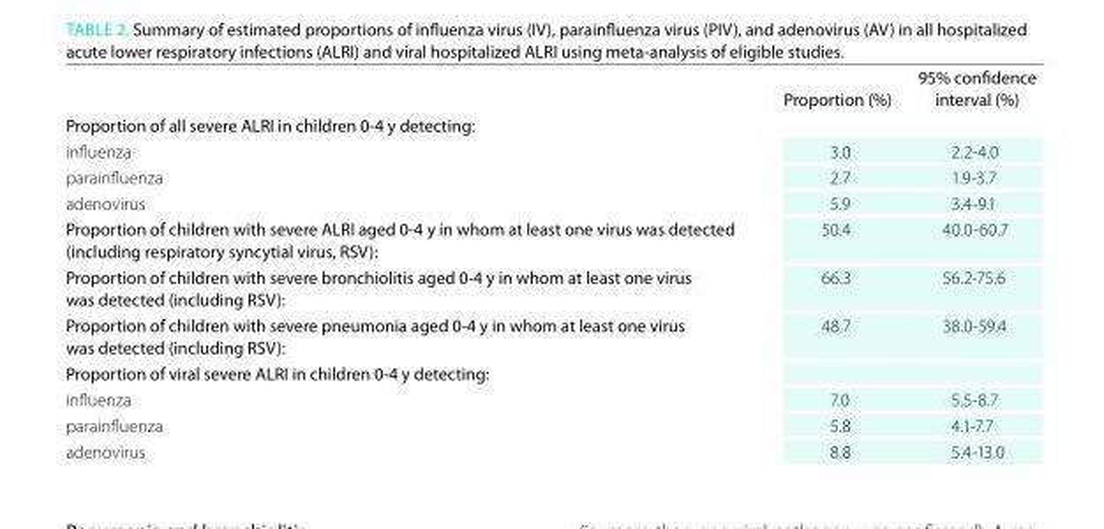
<table><thead><tr><td></td><td>Proportion (%)</td><td>95% confidence interval (%)</td></tr></thead><tbody><tr><td colspan="3">Proportion of all severe ALRI in children 0-4 y detecting:</td></tr><tr><td>influenza</td><td>3.0</td><td>2.2-4.0</td></tr><tr><td>parainfluenza</td><td>2.7</td><td>1.9-3.7</td></tr><tr><td>adenovirus</td><td>5.9</td><td>3.4-9.1</td></tr><tr><td>Proportion of children with severe ALRI aged 0-4 y in whom at least one virus was detected (including respiratory syncytial virus, RSV):</td><td>50.4</td><td>40.0-60.7</td></tr><tr><td>Proportion of children with severe bronchiolitis aged 0-4 y in whom at least one virus was detected (including RSV):</td><td>66.3</td><td>56.2-75.6</td></tr><tr><td>Proportion of children with severe pneumonia aged 0-4 y in whom at least one virus was detected (including RSV):</td><td>48.7</td><td>38.0-59.4</td></tr><tr><td colspan="3">Proportion of viral severe ALRI in children 0-4 y detecting:</td></tr><tr><td>influenza</td><td>7.0</td><td>5.5-8.7</td></tr><tr><td>parainfluenza</td><td>5.8</td><td>4.1-7.7</td></tr><tr><td>adenovirus</td><td>8.8</td><td>5.4-13.0</td></tr></tbody></table>